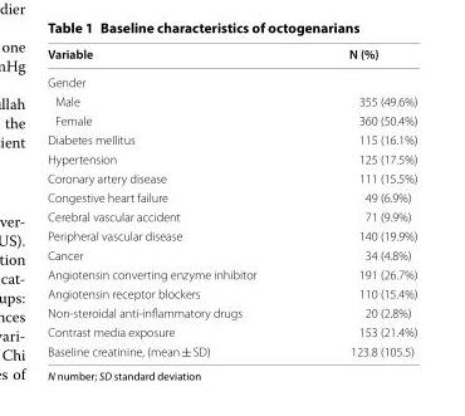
<table><thead><tr><td>Variable</td><td>N (%)</td></tr></thead><tbody><tr><td colspan="2">Gender</td></tr><tr><td>Male</td><td>355 (49.6%)</td></tr><tr><td>Female</td><td>360 (50.4%)</td></tr><tr><td>Diabetes mellitus</td><td>115 (16.1%)</td></tr><tr><td>Hypertension</td><td>125 (17.5%)</td></tr><tr><td>Coronary artery disease</td><td>111 (15.5%)</td></tr><tr><td>Congestive heart failure</td><td>49 (6.9%)</td></tr><tr><td>Cerebral vascular accident</td><td>71 (9.9%)</td></tr><tr><td>Peripheral vascular disease</td><td>140 (19.9%)</td></tr><tr><td>Cancer</td><td>34 (4.8%)</td></tr><tr><td>Angiotensin converting enzyme inhibitor</td><td>191 (26.7%)</td></tr><tr><td>Angiotensin receptor blockers</td><td>110 (15.4%)</td></tr><tr><td>Non-steroidal anti-inflammatory drugs</td><td>20 (2.8%)</td></tr><tr><td>Contrast media exposure</td><td>153 (21.4%)</td></tr><tr><td>Baseline creatinine, (mean ± SD)</td><td>123.8 (105.5)</td></tr></tbody></table>